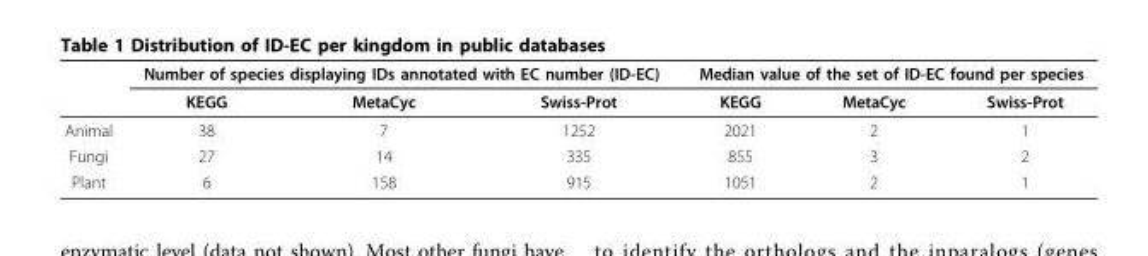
<table><thead><tr><td rowspan="2"></td><td colspan="3">Number of species displaying IDs annotated with EC number (ID-EC)</td><td colspan="3">Median value of the set of ID-EC found per species</td></tr><tr><td>KEGG</td><td>MetaCyc</td><td>Swiss-Prot</td><td>KEGG</td><td>MetaCyc</td><td>Swiss-Prot</td></tr></thead><tbody><tr><td>Animal</td><td>38</td><td>7</td><td>1252</td><td>2021</td><td>2</td><td>1</td></tr><tr><td>Fungi</td><td>27</td><td>14</td><td>335</td><td>855</td><td>3</td><td>2</td></tr><tr><td>Plant</td><td>6</td><td>158</td><td>915</td><td>1051</td><td>2</td><td>1</td></tr></tbody></table>